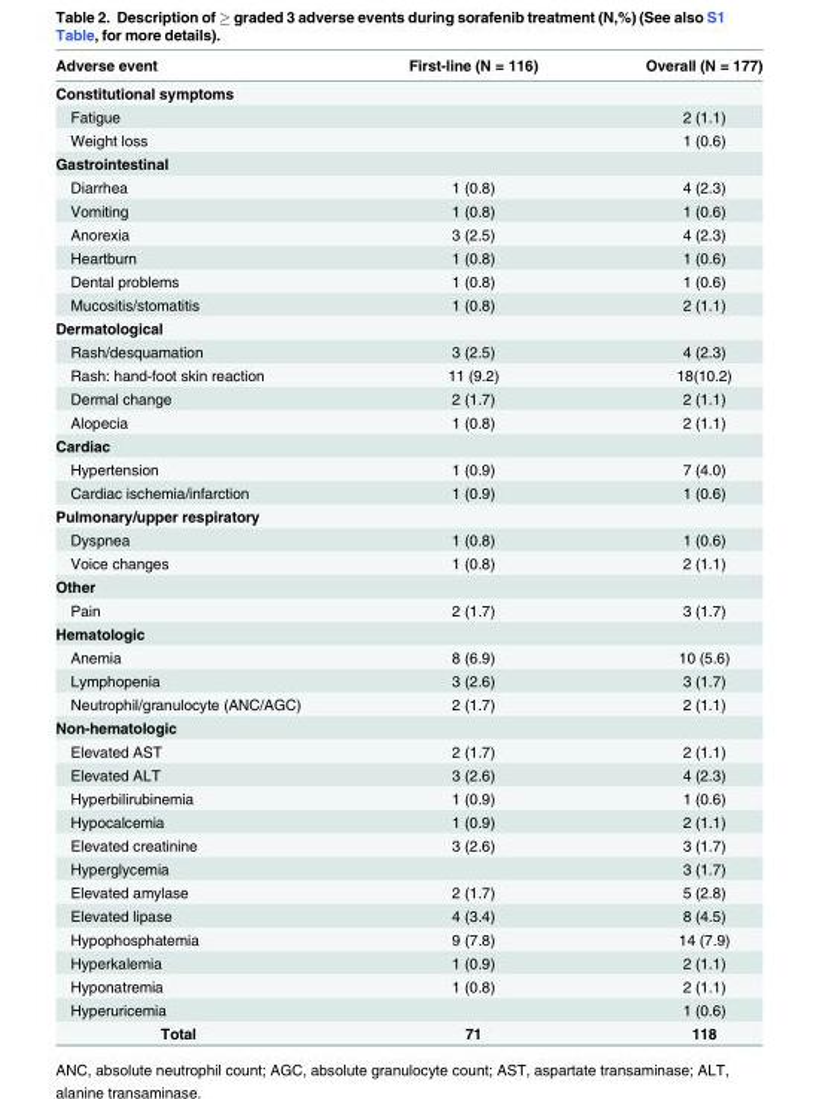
<table><thead><tr><td>Adverse event</td><td>First-line (N = 116)</td><td>Overall (N = 177)</td></tr></thead><tbody><tr><td colspan="3">Constitutional symptoms</td></tr><tr><td>Fatigue</td><td></td><td>2 (1.1)</td></tr><tr><td>Weight loss</td><td></td><td>1 (0.6)</td></tr><tr><td colspan="3">Gastrointestinal</td></tr><tr><td>Diarrhea</td><td>1 (0.8)</td><td>4 (2.3)</td></tr><tr><td>Vomiting</td><td>1 (0.8)</td><td>1 (0.6)</td></tr><tr><td>Anorexia</td><td>3 (2.5)</td><td>4 (2.3)</td></tr><tr><td>Heartburn</td><td>1 (0.8)</td><td>1 (0.6)</td></tr><tr><td>Dental problems</td><td>1 (0.8)</td><td>1 (0.6)</td></tr><tr><td>Mucositis/stomatitis</td><td>1 (0.8)</td><td>2 (1.1)</td></tr><tr><td colspan="3">Dermatological</td></tr><tr><td>Rash/desquamation</td><td>3 (2.5)</td><td>4 (2.3)</td></tr><tr><td>Rash: hand-foot skin reaction</td><td>11 (9.2)</td><td>18(10.2)</td></tr><tr><td>Dermal change</td><td>2 (1.7)</td><td>2 (1.1)</td></tr><tr><td>Alopecia</td><td>1 (0.8)</td><td>2 (1.1)</td></tr><tr><td colspan="3">Cardiac</td></tr><tr><td>Hypertension</td><td>1 (0.9)</td><td>7 (4.0)</td></tr><tr><td>Cardiac ischemia/infarction</td><td>1 (0.9)</td><td>1 (0.6)</td></tr><tr><td colspan="3">Pulmonary/upper respiratory</td></tr><tr><td>Dyspnea</td><td>1 (0.8)</td><td>1 (0.6)</td></tr><tr><td>Voice changes</td><td>1 (0.8)</td><td>2 (1.1)</td></tr><tr><td colspan="3">Other</td></tr><tr><td>Pain</td><td>2 (1.7)</td><td>3 (1.7)</td></tr><tr><td colspan="3">Hematologic</td></tr><tr><td>Anemia</td><td>8 (6.9)</td><td>10 (5.6)</td></tr><tr><td>Lymphopenia</td><td>3 (2.6)</td><td>3 (1.7)</td></tr><tr><td>Neutrophil/granulocyte (ANC/AGC)</td><td>2 (1.7)</td><td>2 (1.1)</td></tr><tr><td colspan="3">Non-hematologic</td></tr><tr><td>Elevated AST</td><td>2 (1.7)</td><td>2 (1.1)</td></tr><tr><td>Elevated ALT</td><td>3 (2.6)</td><td>4 (2.3)</td></tr><tr><td>Hyperbilirubinemia</td><td>1 (0.9)</td><td>1 (0.6)</td></tr><tr><td>Hypocalcemia</td><td>1 (0.9)</td><td>2 (1.1)</td></tr><tr><td>Elevated creatinine</td><td>3 (2.6)</td><td>3 (1.7)</td></tr><tr><td>Hyperglycemia</td><td></td><td>3 (1.7)</td></tr><tr><td>Elevated amylase</td><td>2 (1.7)</td><td>5 (2.8)</td></tr><tr><td>Elevated lipase</td><td>4 (3.4)</td><td>8 (4.5)</td></tr><tr><td>Hypophosphatemia</td><td>9 (7.8)</td><td>14 (7.9)</td></tr><tr><td>Hyperkalemia</td><td>1 (0.9)</td><td>2 (1.1)</td></tr><tr><td>Hyponatremia</td><td>1 (0.8)</td><td>2 (1.1)</td></tr><tr><td>Hyperuricemia</td><td></td><td>1 (0.6)</td></tr><tr><td>Total</td><td>71</td><td>118</td></tr></tbody></table>